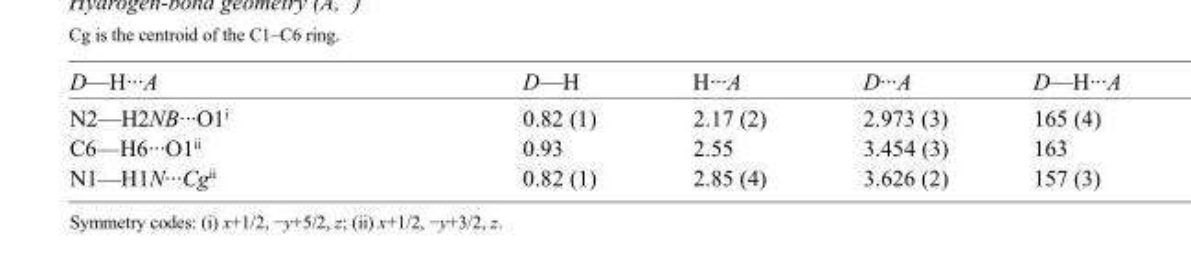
<table><tbody><tr><td>D—H···A</td><td>D—H</td><td>H···A</td><td>D···A</td><td>D—H···A</td></tr><tr><td>N2—H2NB···O1<sup>i</sup></td><td>0.82 (1)</td><td>2.17 (2)</td><td>2.973 (3)</td><td>165 (4)</td></tr><tr><td>C6—H6···O1<sup>ii</sup></td><td>0.93</td><td>2.55</td><td>3.454 (3)</td><td>163</td></tr><tr><td>N1—H1N···Cg<sup>ii</sup></td><td>0.82 (1)</td><td>2.85 (4)</td><td>3.626 (2)</td><td>157 (3)</td></tr></tbody></table>